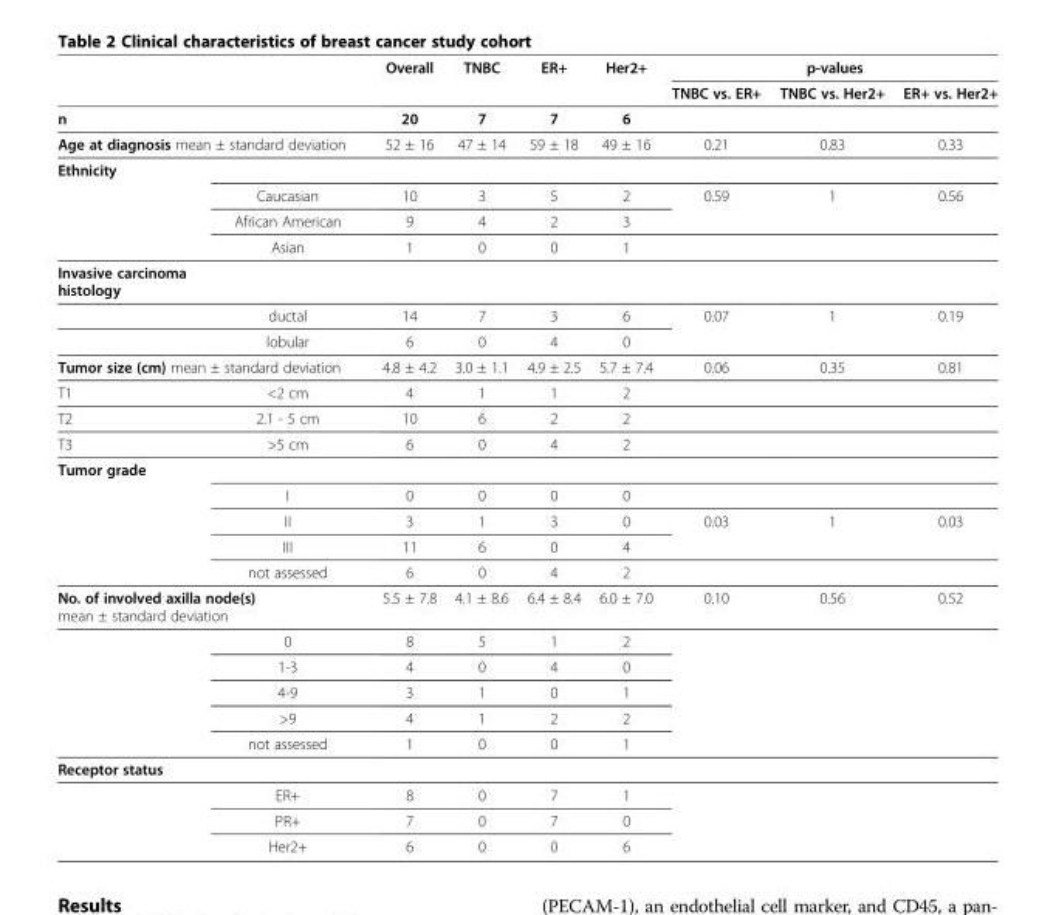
<table><thead><tr><td rowspan="2"></td><td rowspan="2"></td><td rowspan="2">Overall</td><td rowspan="2">TNBC</td><td rowspan="2">ER+</td><td rowspan="2">Her2+</td><td colspan="3">p-values</td></tr><tr><td>TNBC vs. ER+</td><td>TNBC vs. Her2+</td><td>ER+ vs. Her2+</td></tr></thead><tbody><tr><td>n</td><td></td><td>20</td><td>7</td><td>7</td><td>6</td><td></td><td></td><td></td></tr><tr><td colspan="2">Age at diagnosis mean ± standard deviation</td><td>52 ± 16</td><td>47 ± 14</td><td>59 ± 18</td><td>49 ± 16</td><td>0.21</td><td>0.83</td><td>0.33</td></tr><tr><td colspan="9">Ethnicity</td></tr><tr><td></td><td>Caucasian</td><td>10</td><td>3</td><td>5</td><td>2</td><td>0.59</td><td>1</td><td>0.56</td></tr><tr><td></td><td>African American</td><td>9</td><td>4</td><td>2</td><td>3</td><td></td><td></td><td></td></tr><tr><td></td><td>Asian</td><td>1</td><td>0</td><td>0</td><td>1</td><td></td><td></td><td></td></tr><tr><td colspan="9">Invasive carcinoma histology</td></tr><tr><td></td><td>ductal</td><td>14</td><td>7</td><td>3</td><td>6</td><td rowspan="2">0.07</td><td rowspan="2">1</td><td rowspan="2">0.19</td></tr><tr><td></td><td>lobular</td><td>6</td><td>0</td><td>4</td><td>0</td></tr><tr><td colspan="2">Tumor size (cm) mean ± standard deviation</td><td>4.8 ± 4.2</td><td>3.0 ± 1.1</td><td>4.9 ± 2.5</td><td>5.7 ± 7.4</td><td>0.06</td><td>0.35</td><td>0.81</td></tr><tr><td>T1</td><td>&lt;2 cm</td><td>4</td><td>1</td><td>1</td><td>2</td><td></td><td></td><td></td></tr><tr><td>T2</td><td>2.1 - 5 cm</td><td>10</td><td>6</td><td>2</td><td>2</td><td></td><td></td><td></td></tr><tr><td>T3</td><td>&gt;5 cm</td><td>6</td><td>0</td><td>4</td><td>2</td><td></td><td></td><td></td></tr><tr><td colspan="9">Tumor grade</td></tr><tr><td></td><td>I</td><td>0</td><td>0</td><td>0</td><td>0</td><td></td><td></td><td></td></tr><tr><td></td><td>II</td><td>3</td><td>1</td><td>3</td><td>0</td><td>0.03</td><td>1</td><td>0.03</td></tr><tr><td></td><td>III</td><td>11</td><td>6</td><td>0</td><td>4</td><td></td><td></td><td></td></tr><tr><td></td><td>not assessed</td><td>6</td><td>0</td><td>4</td><td>2</td><td></td><td></td><td></td></tr><tr><td colspan="2">No. of involved axilla node(s) mean ± standard deviation</td><td>5.5 ± 7.8</td><td>4.1 ± 8.6</td><td>6.4 ± 8.4</td><td>6.0 ± 7.0</td><td>0.10</td><td>0.56</td><td>0.52</td></tr><tr><td></td><td>0</td><td>8</td><td>5</td><td>1</td><td>2</td><td></td><td></td><td></td></tr><tr><td></td><td>1-3</td><td>4</td><td>0</td><td>4</td><td>0</td><td></td><td></td><td></td></tr><tr><td></td><td>4-9</td><td>3</td><td>1</td><td>0</td><td>1</td><td></td><td></td><td></td></tr><tr><td></td><td>&gt;9</td><td>4</td><td>1</td><td>2</td><td>2</td><td></td><td></td><td></td></tr><tr><td></td><td>not assessed</td><td>1</td><td>0</td><td>0</td><td>1</td><td></td><td></td><td></td></tr><tr><td colspan="9">Receptor status</td></tr><tr><td></td><td>ER+</td><td>8</td><td>0</td><td>7</td><td>1</td><td></td><td></td><td></td></tr><tr><td></td><td>PR+</td><td>7</td><td>0</td><td>7</td><td>0</td><td></td><td></td><td></td></tr><tr><td></td><td>Her2+</td><td>6</td><td>0</td><td>0</td><td>6</td><td></td><td></td><td></td></tr></tbody></table>